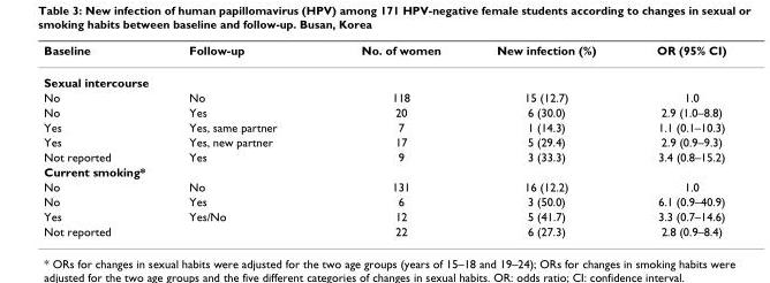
<table><thead><tr><td>Baseline</td><td>Follow-up</td><td>No. of women</td><td>New infection (%)</td><td>OR (95% CI)</td></tr></thead><tbody><tr><td colspan="5">Sexual intercourse</td></tr><tr><td>No</td><td>No</td><td>118</td><td>15 (12.7)</td><td>1.0</td></tr><tr><td>No</td><td>Yes</td><td>20</td><td>6 (30.0)</td><td>2.9 (1.0–8.8)</td></tr><tr><td>Yes</td><td>Yes, same partner</td><td>7</td><td>1 (14.3)</td><td>1.1 (0.1–10.3)</td></tr><tr><td>Yes</td><td>Yes, new partner</td><td>17</td><td>5 (29.4)</td><td>2.9 (0.9–9.3)</td></tr><tr><td>Not reported</td><td>Yes</td><td>9</td><td>3 (33.3)</td><td>3.4 (0.8–15.2)</td></tr><tr><td colspan="5">Current smoking*</td></tr><tr><td>No</td><td>No</td><td>131</td><td>16 (12.2)</td><td>1.0</td></tr><tr><td>No</td><td>Yes</td><td>6</td><td>3 (50.0)</td><td>6.1 (0.9–40.9)</td></tr><tr><td>Yes</td><td>Yes/No</td><td>12</td><td>5 (41.7)</td><td>3.3 (0.7–14.6)</td></tr><tr><td>Not reported</td><td></td><td>22</td><td>6 (27.3)</td><td>2.8 (0.9–8.4)</td></tr></tbody></table>